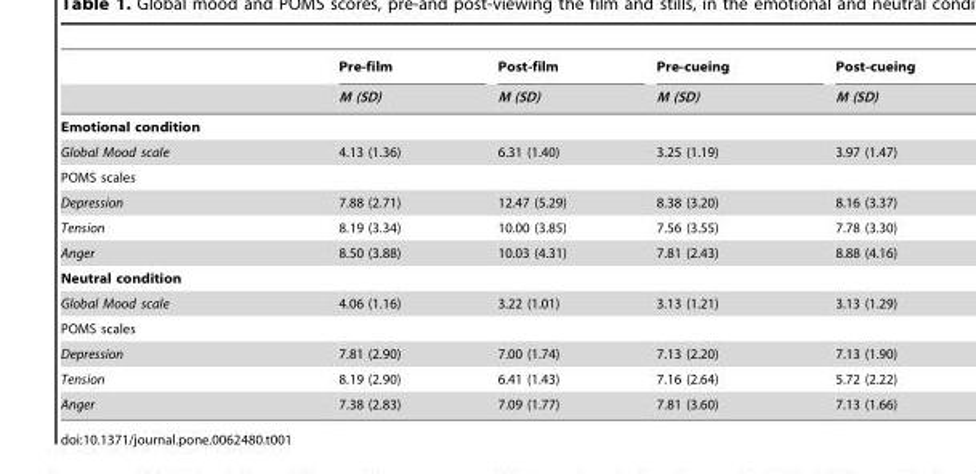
<table><thead><tr><td rowspan="2"></td><td rowspan="2">Pre-film M (SD)</td><td rowspan="2">Post-film M (SD)</td><td rowspan="2">Pre-cueing M (SD)</td><td rowspan="2">Post-cueing M (SD)</td></tr><tr></tr></thead><tbody><tr><td colspan="5">Emotional condition</td></tr><tr><td>Global Mood scale</td><td>4.13 (1.36)</td><td>6.31 (1.40)</td><td>3.25 (1.19)</td><td>3.97 (1.47)</td></tr><tr><td colspan="5">POMS scales</td></tr><tr><td>Depression</td><td>7.88 (2.71)</td><td>12.47 (5.29)</td><td>8.38 (3.20)</td><td>8.16 (3.37)</td></tr><tr><td>Tension</td><td>8.19 (3.34)</td><td>10.00 (3.85)</td><td>7.56 (3.55)</td><td>7.78 (3.30)</td></tr><tr><td>Anger</td><td>8.50 (3.88)</td><td>10.03 (4.31)</td><td>7.81 (2.43)</td><td>8.88 (4.16)</td></tr><tr><td colspan="5">Neutral condition</td></tr><tr><td>Global Mood scale</td><td>4.06 (1.16)</td><td>3.22 (1.01)</td><td>3.13 (1.21)</td><td>3.13 (1.29)</td></tr><tr><td colspan="5">POMS scales</td></tr><tr><td>Depression</td><td>7.81 (2.90)</td><td>7.00 (1.74)</td><td>7.13 (2.20)</td><td>7.13 (1.90)</td></tr><tr><td>Tension</td><td>8.19 (2.90)</td><td>6.41 (1.43)</td><td>7.16 (2.64)</td><td>5.72 (2.22)</td></tr><tr><td>Anger</td><td>7.38 (2.83)</td><td>7.09 (1.77)</td><td>7.81 (3.60)</td><td>7.13 (1.66)</td></tr></tbody></table>